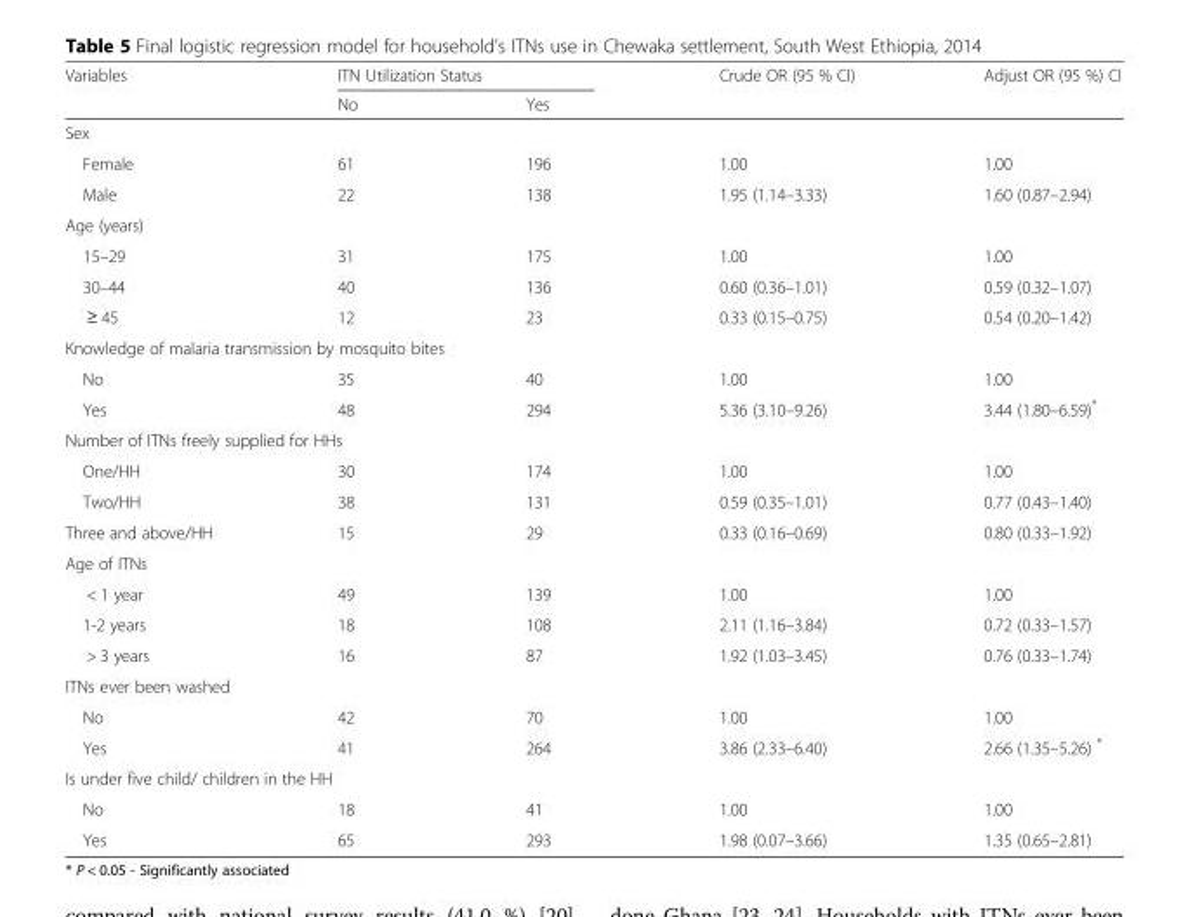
<table><thead><tr><td rowspan="2">Variables</td><td colspan="2">ITN Utilization Status</td><td rowspan="2">Crude OR (95 % CI)</td><td rowspan="2">Adjust OR (95 %) CI</td></tr><tr><td>No</td><td>Yes</td></tr></thead><tbody><tr><td colspan="5">Sex</td></tr><tr><td>Female</td><td>61</td><td>196</td><td>1.00</td><td>1.00</td></tr><tr><td>Male</td><td>22</td><td>138</td><td>1.95 (1.14–3.33)</td><td>1.60 (0.87–2.94)</td></tr><tr><td colspan="5">Age (years)</td></tr><tr><td>15–29</td><td>31</td><td>175</td><td>1.00</td><td>1.00</td></tr><tr><td>30–44</td><td>40</td><td>136</td><td>0.60 (0.36–1.01)</td><td>0.59 (0.32–1.07)</td></tr><tr><td>≥ 45</td><td>12</td><td>23</td><td>0.33 (0.15–0.75)</td><td>0.54 (0.20–1.42)</td></tr><tr><td colspan="5">Knowledge of malaria transmission by mosquito bites</td></tr><tr><td>No</td><td>35</td><td>40</td><td>1.00</td><td>1.00</td></tr><tr><td>Yes</td><td>48</td><td>294</td><td>5.36 (3.10–9.26)</td><td>3.44 (1.80–6.59)*</td></tr><tr><td colspan="5">Number of ITNs freely supplied for HHs</td></tr><tr><td>One/HH</td><td>30</td><td>174</td><td>1.00</td><td>1.00</td></tr><tr><td>Two/HH</td><td>38</td><td>131</td><td>0.59 (0.35–1.01)</td><td>0.77 (0.43–1.40)</td></tr><tr><td>Three and above/HH</td><td>15</td><td>29</td><td>0.33 (0.16–0.69)</td><td>0.80 (0.33–1.92)</td></tr><tr><td colspan="5">Age of ITNs</td></tr><tr><td>&lt; 1 year</td><td>49</td><td>139</td><td>1.00</td><td>1.00</td></tr><tr><td>1-2 years</td><td>18</td><td>108</td><td>2.11 (1.16–3.84)</td><td>0.72 (0.33–1.57)</td></tr><tr><td>&gt; 3 years</td><td>16</td><td>87</td><td>1.92 (1.03–3.45)</td><td>0.76 (0.33–1.74)</td></tr><tr><td colspan="5">ITNs ever been washed</td></tr><tr><td>No</td><td>42</td><td>70</td><td>1.00</td><td>1.00</td></tr><tr><td>Yes</td><td>41</td><td>264</td><td>3.86 (2.33–6.40)</td><td>2.66 (1.35–5.26) *</td></tr><tr><td colspan="5">Is under five child/ children in the HH</td></tr><tr><td>No</td><td>18</td><td>41</td><td>1.00</td><td>1.00</td></tr><tr><td>Yes</td><td>65</td><td>293</td><td>1.98 (0.07–3.66)</td><td>1.35 (0.65–2.81)</td></tr></tbody></table>